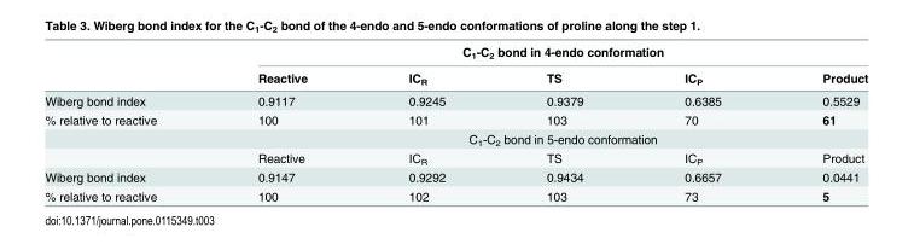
<table><thead><tr><td rowspan="2"></td><td colspan="5">C<sub>1</sub>-C<sub>2</sub> bond in 4-endo conformation</td></tr><tr><td>Reactive</td><td>IC<sub>R</sub></td><td>TS</td><td>IC<sub>P</sub></td><td>Product</td></tr></thead><tbody><tr><td>Wiberg bond index</td><td>0.9117</td><td>0.9245</td><td>0.9379</td><td>0.6385</td><td>0.5529</td></tr><tr><td rowspan="3">% relative to reactive</td><td>100</td><td>101</td><td>103</td><td>70</td><td>61</td></tr><tr><td colspan="5">C<sub>1</sub>-C<sub>2</sub> bond in 5-endo conformation</td></tr><tr><td>Reactive</td><td>IC<sub>R</sub></td><td>TS</td><td>IC<sub>P</sub></td><td>Product</td></tr><tr><td>Wiberg bond index</td><td>0.9147</td><td>0.9292</td><td>0.9434</td><td>0.6657</td><td>0.0441</td></tr><tr><td>% relative to reactive</td><td>100</td><td>102</td><td>103</td><td>73</td><td>5</td></tr></tbody></table>